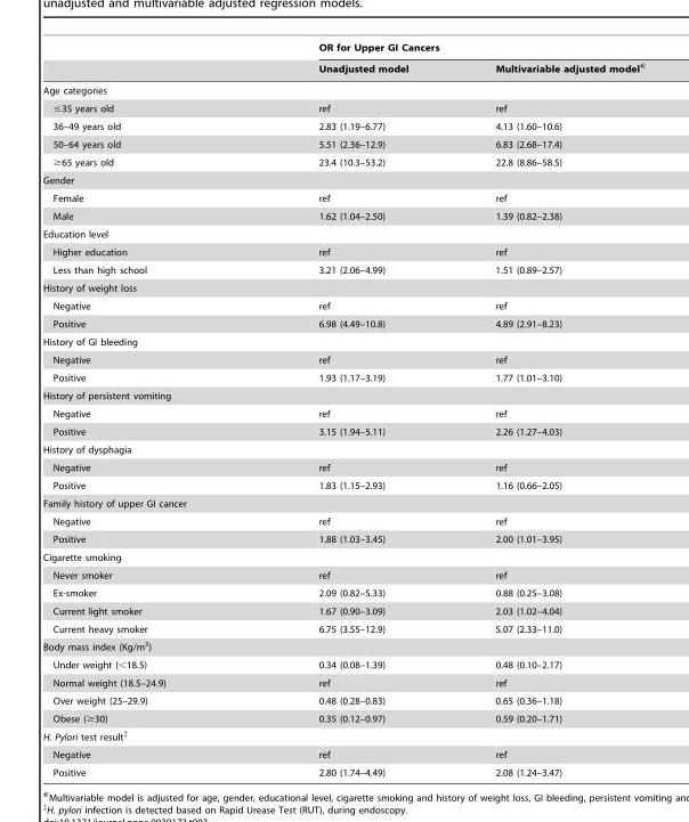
<table><thead><tr><td rowspan="2"></td><td colspan="2">OR for Upper GI Cancers</td></tr><tr><td>Unadjusted model</td><td>Multivariable adjusted model€</td></tr></thead><tbody><tr><td colspan="3">Age categories</td></tr><tr><td>≤35 years old</td><td>ref</td><td>ref</td></tr><tr><td>36–49 years old</td><td>2.83 (1.19–6.77)</td><td>4.13 (1.60–10.6)</td></tr><tr><td>50–64 years old</td><td>5.51 (2.36–12.9)</td><td>6.83 (2.68–17.4)</td></tr><tr><td>≥65 years old</td><td>23.4 (10.3–53.2)</td><td>22.8 (8.86–58.5)</td></tr><tr><td colspan="3">Gender</td></tr><tr><td>Female</td><td>ref</td><td>ref</td></tr><tr><td>Male</td><td>1.62 (1.04–2.50)</td><td>1.39 (0.82–2.38)</td></tr><tr><td colspan="3">Education level</td></tr><tr><td>Higher education</td><td>ref</td><td>ref</td></tr><tr><td>Less than high school</td><td>3.21 (2.06–4.99)</td><td>1.51 (0.89–2.57)</td></tr><tr><td colspan="3">History of weight loss</td></tr><tr><td>Negative</td><td>ref</td><td>ref</td></tr><tr><td>Positive</td><td>6.98 (4.49–10.8)</td><td>4.89 (2.91–8.23)</td></tr><tr><td colspan="3">History of GI bleeding</td></tr><tr><td>Negative</td><td>ref</td><td>ref</td></tr><tr><td>Positive</td><td>1.93 (1.17–3.19)</td><td>1.77 (1.01–3.10)</td></tr><tr><td colspan="3">History of persistent vomiting</td></tr><tr><td>Negative</td><td>ref</td><td>ref</td></tr><tr><td>Positive</td><td>3.15 (1.94–5.11)</td><td>2.26 (1.27–4.03)</td></tr><tr><td colspan="3">History of dysphagia</td></tr><tr><td>Negative</td><td>ref</td><td>ref</td></tr><tr><td>Positive</td><td>1.83 (1.15–2.93)</td><td>1.16 (0.66–2.05)</td></tr><tr><td colspan="3">Family history of upper GI cancer</td></tr><tr><td>Negative</td><td>ref</td><td>ref</td></tr><tr><td>Positive</td><td>1.88 (1.03–3.45)</td><td>2.00 (1.01–3.95)</td></tr><tr><td colspan="3">Cigarette smoking</td></tr><tr><td>Never smoker</td><td>ref</td><td>ref</td></tr><tr><td>Ex-smoker</td><td>2.09 (0.82–5.33)</td><td>0.88 (0.25–3.08)</td></tr><tr><td>Current light smoker</td><td>1.67 (0.90–3.09)</td><td>2.03 (1.02–4.04)</td></tr><tr><td>Current heavy smoker</td><td>6.75 (3.55–12.9)</td><td>5.07 (2.33–11.0)</td></tr><tr><td colspan="3">Body mass index (Kg/m<sup>2</sup>)</td></tr><tr><td>Under weight (&lt;18.5)</td><td>0.34 (0.08–1.39)</td><td>0.48 (0.10–2.17)</td></tr><tr><td>Normal weight (18.5–24.9)</td><td>ref</td><td>ref</td></tr><tr><td>Over weight (25–29.9)</td><td>0.48 (0.28–0.83)</td><td>0.65 (0.36–1.18)</td></tr><tr><td>Obese (≥30)</td><td>0.35 (0.12–0.97)</td><td>0.59 (0.20–1.71)</td></tr><tr><td colspan="3">H. Pylori test result‡</td></tr><tr><td>Negative</td><td>ref</td><td>ref</td></tr><tr><td>Positive</td><td>2.80 (1.74–4.49)</td><td>2.08 (1.24–3.47)</td></tr></tbody></table>